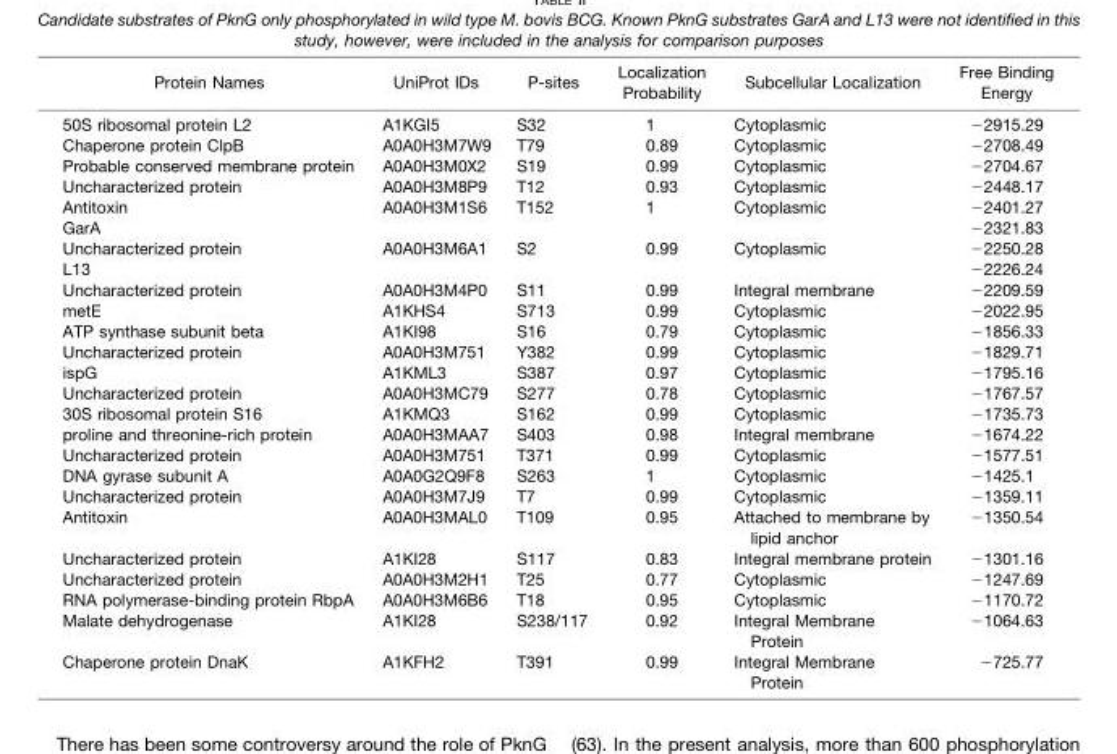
<table><thead><tr><td>Protein Names</td><td>UniProt IDs</td><td>P-sites</td><td>Localization Probability</td><td>Subcellular Localization</td><td>Free Binding Energy</td></tr></thead><tbody><tr><td>50S ribosomal protein L2</td><td>A1KGI5</td><td>S32</td><td>1</td><td>Cytoplasmic</td><td>−2915.29</td></tr><tr><td>Chaperone protein ClpB</td><td>A0A0H3M7W9</td><td>T79</td><td>0.89</td><td>Cytoplasmic</td><td>−2708.49</td></tr><tr><td>Probable conserved membrane protein</td><td>A0A0H3M0X2</td><td>S19</td><td>0.99</td><td>Cytoplasmic</td><td>−2704.67</td></tr><tr><td>Uncharacterized protein</td><td>A0A0H3M8P9</td><td>T12</td><td>0.93</td><td>Cytoplasmic</td><td>−2448.17</td></tr><tr><td>Antitoxin</td><td>A0A0H3M1S6</td><td>T152</td><td>1</td><td>Cytoplasmic</td><td>−2401.27</td></tr><tr><td>GarA</td><td></td><td></td><td></td><td></td><td>−2321.83</td></tr><tr><td>Uncharacterized protein</td><td>A0A0H3M6A1</td><td>S2</td><td>0.99</td><td>Cytoplasmic</td><td>−2250.28</td></tr><tr><td>L13</td><td></td><td></td><td></td><td></td><td>−2226.24</td></tr><tr><td>Uncharacterized protein</td><td>A0A0H3M4P0</td><td>S11</td><td>0.99</td><td>Integral membrane</td><td>−2209.59</td></tr><tr><td>metE</td><td>A1KHS4</td><td>S713</td><td>0.99</td><td>Cytoplasmic</td><td>−2022.95</td></tr><tr><td>ATP synthase subunit beta</td><td>A1KI98</td><td>S16</td><td>0.79</td><td>Cytoplasmic</td><td>−1856.33</td></tr><tr><td>Uncharacterized protein</td><td>A0A0H3M751</td><td>Y382</td><td>0.99</td><td>Cytoplasmic</td><td>−1829.71</td></tr><tr><td>ispG</td><td>A1KML3</td><td>S387</td><td>0.97</td><td>Cytoplasmic</td><td>−1795.16</td></tr><tr><td>Uncharacterized protein</td><td>A0A0H3MC79</td><td>S277</td><td>0.78</td><td>Cytoplasmic</td><td>−1767.57</td></tr><tr><td>30S ribosomal protein S16</td><td>A1KMQ3</td><td>S162</td><td>0.99</td><td>Cytoplasmic</td><td>−1735.73</td></tr><tr><td>proline and threonine-rich protein</td><td>A0A0H3MAA7</td><td>S403</td><td>0.98</td><td>Integral membrane</td><td>−1674.22</td></tr><tr><td>Uncharacterized protein</td><td>A0A0H3M751</td><td>T371</td><td>0.99</td><td>Cytoplasmic</td><td>−1577.51</td></tr><tr><td>DNA gyrase subunit A</td><td>A0A0G2Q9F8</td><td>S263</td><td>1</td><td>Cytoplasmic</td><td>−1425.1</td></tr><tr><td>Uncharacterized protein</td><td>A0A0H3M7J9</td><td>T7</td><td>0.99</td><td>Cytoplasmic</td><td>−1359.11</td></tr><tr><td>Antitoxin</td><td>A0A0H3MAL0</td><td>T109</td><td>0.95</td><td>Attached to membrane by lipid anchor</td><td>−1350.54</td></tr><tr><td>Uncharacterized protein</td><td>A1KI28</td><td>S117</td><td>0.83</td><td>Integral membrane protein</td><td>−1301.16</td></tr><tr><td>Uncharacterized protein</td><td>A0A0H3M2H1</td><td>T25</td><td>0.77</td><td>Cytoplasmic</td><td>−1247.69</td></tr><tr><td>RNA polymerase-binding protein RbpA</td><td>A0A0H3M6B6</td><td>T18</td><td>0.95</td><td>Cytoplasmic</td><td>−1170.72</td></tr><tr><td>Malate dehydrogenase</td><td>A1KI28</td><td>S238/117</td><td>0.92</td><td>Integral Membrane Protein</td><td>−1064.63</td></tr><tr><td>Chaperone protein DnaK</td><td>A1KFH2</td><td>T391</td><td>0.99</td><td>Integral Membrane Protein</td><td>−725.77</td></tr></tbody></table>